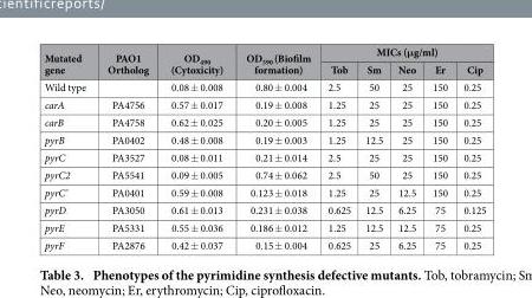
<table><thead><tr><td rowspan="2">Mutated gene</td><td rowspan="2">PAO1 Ortholog</td><td rowspan="2">OD<sub>490</sub> (Cytoxicity)</td><td rowspan="2">OD<sub>590</sub> (Biofilm formation)</td><td colspan="5">MICs (μg/ml)</td></tr><tr><td>Tob</td><td>Sm</td><td>Neo</td><td>Er</td><td>Cip</td></tr></thead><tbody><tr><td>Wild type</td><td></td><td>0.08 ± 0.008</td><td>0.80 ± 0.004</td><td>2.5</td><td>50</td><td>25</td><td>150</td><td>0.25</td></tr><tr><td>carA</td><td>PA4756</td><td>0.57 ± 0.017</td><td>0.19 ± 0.008</td><td>1.25</td><td>25</td><td>25</td><td>150</td><td>0.25</td></tr><tr><td>carB</td><td>PA4758</td><td>0.62 ± 0.025</td><td>0.20 ± 0.005</td><td>1.25</td><td>25</td><td>25</td><td>150</td><td>0.25</td></tr><tr><td>pyrB</td><td>PA0402</td><td>0.48 ± 0.008</td><td>0.19 ± 0.003</td><td>1.25</td><td>12.5</td><td>25</td><td>150</td><td>0.25</td></tr><tr><td>pyrC</td><td>PA3527</td><td>0.08 ± 0.011</td><td>0.21 ± 0.014</td><td>2.5</td><td>25</td><td>25</td><td>150</td><td>0.25</td></tr><tr><td>pyrC2</td><td>PA5541</td><td>0.09 ± 0.005</td><td>0.74 ± 0.062</td><td>2.5</td><td>50</td><td>25</td><td>150</td><td>0.25</td></tr><tr><td>pyrC’</td><td>PA0401</td><td>0.59 ± 0.008</td><td>0.123 ± 0.018</td><td>1.25</td><td>25</td><td>12.5</td><td>150</td><td>0.25</td></tr><tr><td>pyrD</td><td>PA3050</td><td>0.61 ± 0.013</td><td>0.231 ± 0.038</td><td>0.625</td><td>12.5</td><td>6.25</td><td>75</td><td>0.125</td></tr><tr><td>pyrE</td><td>PA5331</td><td>0.55 ± 0.036</td><td>0.186 ± 0.012</td><td>1.25</td><td>12.5</td><td>12.5</td><td>75</td><td>0.25</td></tr><tr><td>pyrF</td><td>PA2876</td><td>0.42 ± 0.037</td><td>0.15 ± 0.004</td><td>0.625</td><td>25</td><td>6.25</td><td>75</td><td>0.25</td></tr></tbody></table>